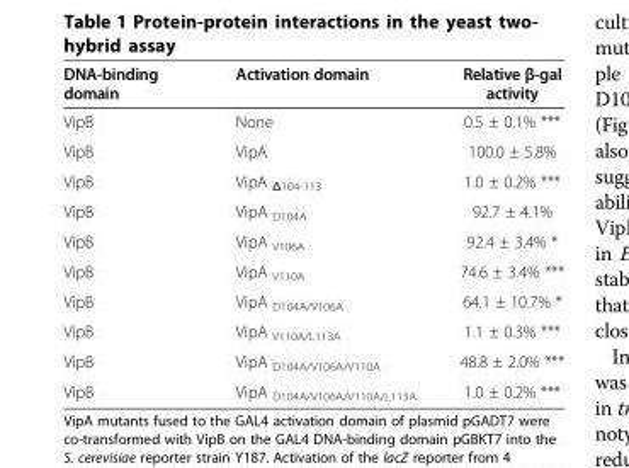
<table><thead><tr><td>DNA-binding domain</td><td>Activation domain</td><td>Relative β-gal activity</td></tr></thead><tbody><tr><td>VipB</td><td>None</td><td>0.5 ± 0.1% ***</td></tr><tr><td>VipB</td><td>VipA</td><td>100.0 ± 5.8%</td></tr><tr><td>VipB</td><td>VipA <sub>Δ104-113</sub></td><td>1.0 ± 0.2% ***</td></tr><tr><td>VipB</td><td>VipA <sub>D104A</sub></td><td>92.7 ± 4.1%</td></tr><tr><td>VipB</td><td>VipA <sub>V106A</sub></td><td>92.4 ± 3.4% *</td></tr><tr><td>VipB</td><td>VipA <sub>V110A</sub></td><td>74.6 ± 3.4% ***</td></tr><tr><td>VipB</td><td>VipA <sub>D104A/V106A</sub></td><td>64.1 ± 10.7% *</td></tr><tr><td>VipB</td><td>VipA <sub>V110A/L113A</sub></td><td>1.1 ± 0.3% ***</td></tr><tr><td>VipB</td><td>VipA <sub>D104A/V106A/V110A</sub></td><td>48.8 ± 2.0% ***</td></tr><tr><td>VipB</td><td>VipA <sub>D104A/V106A/V110A/L113A</sub></td><td>1.0 ± 0.2% ***</td></tr></tbody></table>